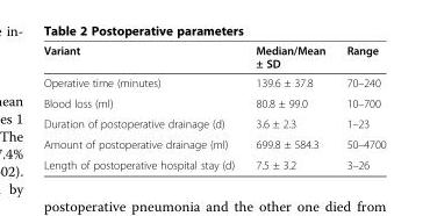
<table><thead><tr><td>Variant</td><td>Median/Mean ± SD</td><td>Range</td></tr></thead><tbody><tr><td>Operative time (minutes)</td><td>139.6 ± 37.8</td><td>70–240</td></tr><tr><td>Blood loss (ml)</td><td>80.8 ± 99.0</td><td>10–700</td></tr><tr><td>Duration of postoperative drainage (d)</td><td>3.6 ± 2.3</td><td>1–23</td></tr><tr><td>Amount of postoperative drainage (ml)</td><td>699.8 ± 584.3</td><td>50–4700</td></tr><tr><td>Length of postoperative hospital stay (d)</td><td>7.5 ± 3.2</td><td>3–26</td></tr></tbody></table>